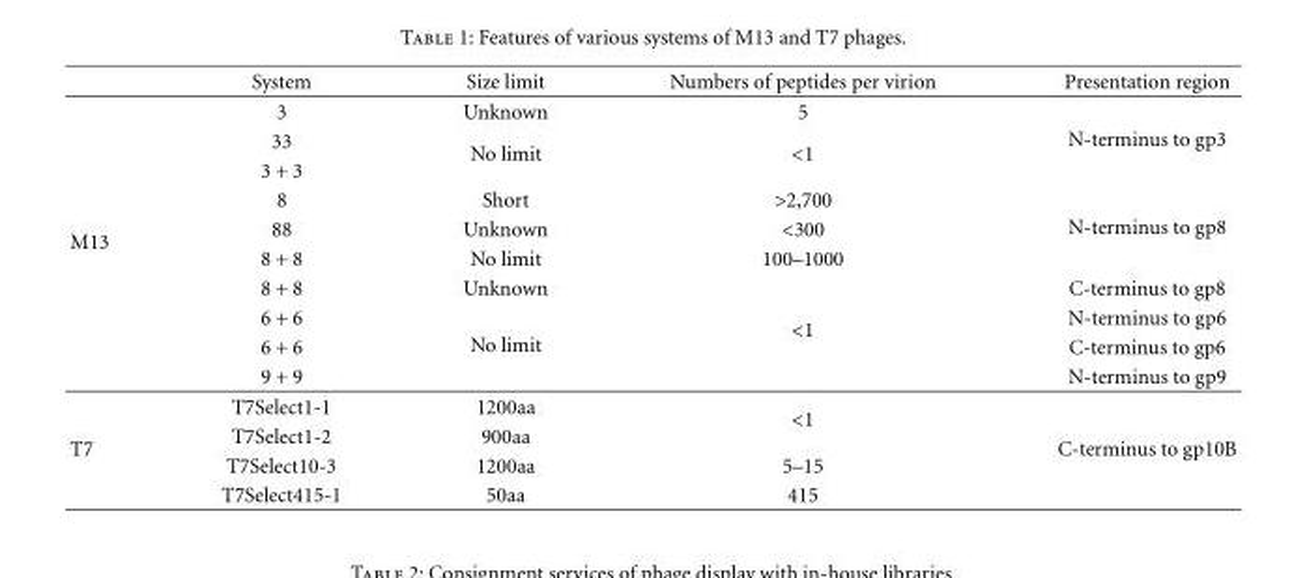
<table><thead><tr><td></td><td>System</td><td>Size limit</td><td>Numbers of peptides per virion</td><td>Presentation region</td></tr></thead><tbody><tr><td rowspan="10">M13</td><td>3</td><td>Unknown</td><td>5</td><td rowspan="3">N-terminus to gp3</td></tr><tr><td>33</td><td rowspan="2">No limit</td><td rowspan="2">&lt;1</td></tr><tr><td>3 + 3</td></tr><tr><td>8</td><td>Short</td><td>&gt;2,700</td><td rowspan="3">N-terminus to gp8</td></tr><tr><td>88</td><td>Unknown</td><td>&lt;300</td></tr><tr><td>8 + 8</td><td>No limit</td><td>100–1000</td></tr><tr><td>8 + 8</td><td>Unknown</td><td></td><td>C-terminus to gp8</td></tr><tr><td>6 + 6</td><td rowspan="3">No limit</td><td rowspan="2">&lt;1</td><td>N-terminus to gp6</td></tr><tr><td>6 + 6</td><td>C-terminus to gp6</td></tr><tr><td>9 + 9</td><td></td><td>N-terminus to gp9</td></tr><tr><td rowspan="4">T7</td><td>T7Select1-1</td><td>1200aa</td><td rowspan="2">&lt;1</td><td rowspan="4">C-terminus to gp10B</td></tr><tr><td>T7Select1-2</td><td>900aa</td></tr><tr><td>T7Select10-3</td><td>1200aa</td><td>5–15</td></tr><tr><td>T7Select415-1</td><td>50aa</td><td>415</td></tr></tbody></table>